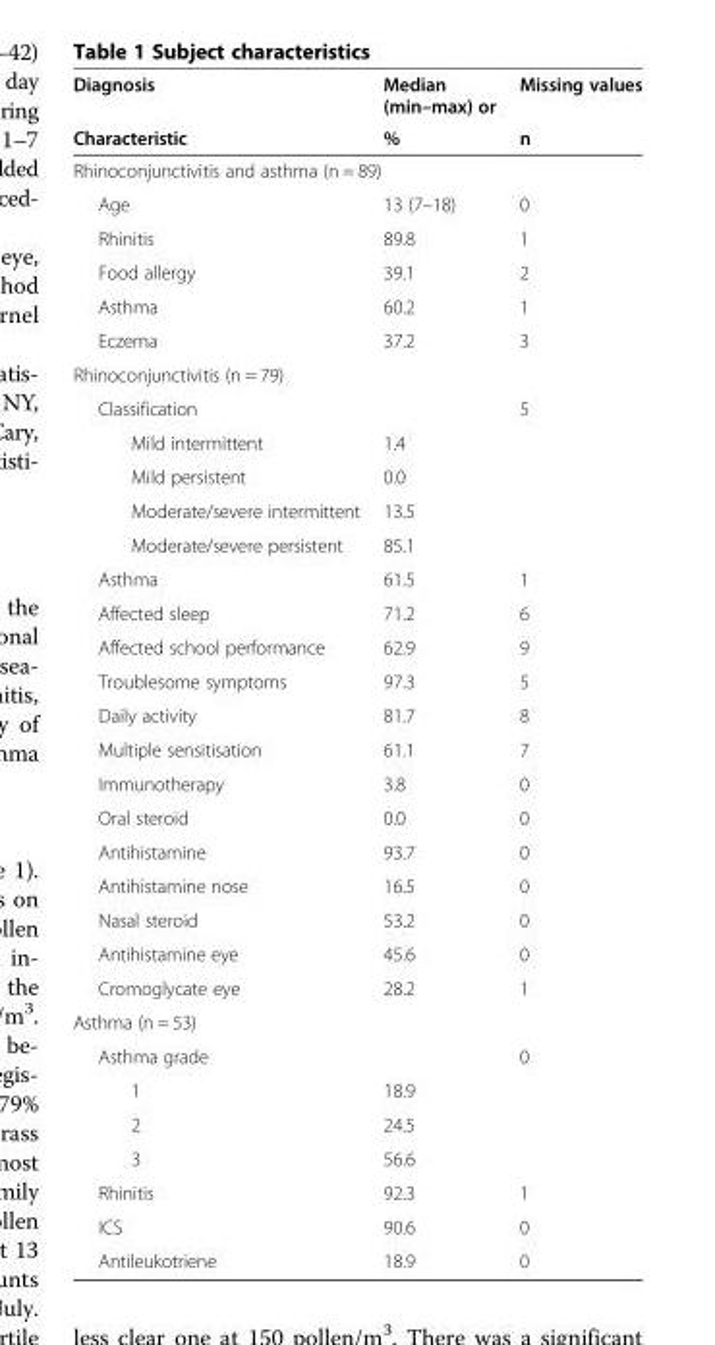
<table><thead><tr><td rowspan="2">Diagnosis Characteristic</td><td rowspan="2">Median (min–max) or %</td><td rowspan="2">Missing values n</td></tr><tr></tr></thead><tbody><tr><td colspan="3">Rhinoconjunctivitis and asthma (n = 89)</td></tr><tr><td>Age</td><td>13 (7–18)</td><td>0</td></tr><tr><td>Rhinitis</td><td>89.8</td><td>1</td></tr><tr><td>Food allergy</td><td>39.1</td><td>2</td></tr><tr><td>Asthma</td><td>60.2</td><td>1</td></tr><tr><td>Eczema</td><td>37.2</td><td>3</td></tr><tr><td colspan="3">Rhinoconjunctivitis (n = 79)</td></tr><tr><td>Classification</td><td></td><td>5</td></tr><tr><td>Mild intermittent</td><td>1.4</td><td></td></tr><tr><td>Mild persistent</td><td>0.0</td><td></td></tr><tr><td>Moderate/severe intermittent</td><td>13.5</td><td></td></tr><tr><td>Moderate/severe persistent</td><td>85.1</td><td></td></tr><tr><td>Asthma</td><td>61.5</td><td>1</td></tr><tr><td>Affected sleep</td><td>71.2</td><td>6</td></tr><tr><td>Affected school performance</td><td>62.9</td><td>9</td></tr><tr><td>Troublesome symptoms</td><td>97.3</td><td>5</td></tr><tr><td>Daily activity</td><td>81.7</td><td>8</td></tr><tr><td>Multiple sensitisation</td><td>61.1</td><td>7</td></tr><tr><td>Immunotherapy</td><td>3.8</td><td>0</td></tr><tr><td>Oral steroid</td><td>0.0</td><td>0</td></tr><tr><td>Antihistamine</td><td>93.7</td><td>0</td></tr><tr><td>Antihistamine nose</td><td>16.5</td><td>0</td></tr><tr><td>Nasal steroid</td><td>53.2</td><td>0</td></tr><tr><td>Antihistamine eye</td><td>45.6</td><td>0</td></tr><tr><td>Cromoglycate eye</td><td>28.2</td><td>1</td></tr><tr><td colspan="3">Asthma (n = 53)</td></tr><tr><td>Asthma grade</td><td></td><td>0</td></tr><tr><td>1</td><td>18.9</td><td></td></tr><tr><td>2</td><td>24.5</td><td></td></tr><tr><td>3</td><td>56.6</td><td></td></tr><tr><td>Rhinitis</td><td>92.3</td><td>1</td></tr><tr><td>ICS</td><td>90.6</td><td>0</td></tr><tr><td>Antileukotriene</td><td>18.9</td><td>0</td></tr></tbody></table>